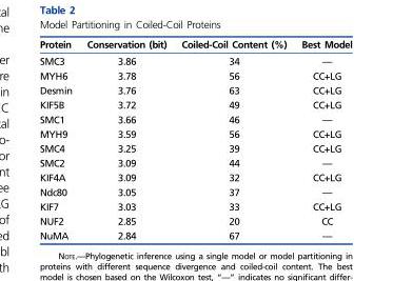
<table><thead><tr><td>Protein</td><td>Conservation (bit)</td><td>Coiled-Coil Content (%)</td><td>Best Model</td></tr></thead><tbody><tr><td>SMC3</td><td>3.86</td><td>34</td><td>—</td></tr><tr><td>MYH6</td><td>3.78</td><td>56</td><td>CC+LG</td></tr><tr><td>Desmin</td><td>3.76</td><td>63</td><td>CC+LG</td></tr><tr><td>KIF5B</td><td>3.72</td><td>49</td><td>CC+LG</td></tr><tr><td>SMC1</td><td>3.66</td><td>46</td><td>—</td></tr><tr><td>MYH9</td><td>3.59</td><td>56</td><td>CC+LG</td></tr><tr><td>SMC4</td><td>3.25</td><td>39</td><td>CC+LG</td></tr><tr><td>SMC2</td><td>3.09</td><td>44</td><td>—</td></tr><tr><td>KIF4A</td><td>3.09</td><td>32</td><td>CC+LG</td></tr><tr><td>Ndc80</td><td>3.05</td><td>37</td><td>—</td></tr><tr><td>KIF7</td><td>3.03</td><td>33</td><td>CC+LG</td></tr><tr><td>NUF2</td><td>2.85</td><td>20</td><td>CC</td></tr><tr><td>NuMA</td><td>2.84</td><td>67</td><td>—</td></tr></tbody></table>